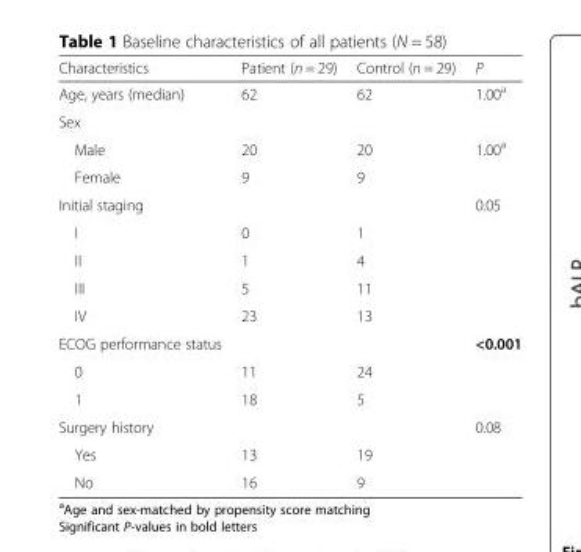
<table><thead><tr><td>Characteristics</td><td>Patient (n = 29)</td><td>Control (n = 29)</td><td>P</td></tr></thead><tbody><tr><td>Age, years (median)</td><td>62</td><td>62</td><td>1.00<sup>a</sup></td></tr><tr><td colspan="4">Sex</td></tr><tr><td>Male</td><td>20</td><td>20</td><td>1.00<sup>a</sup></td></tr><tr><td>Female</td><td>9</td><td>9</td><td></td></tr><tr><td>Initial staging</td><td></td><td></td><td>0.05</td></tr><tr><td>I</td><td>0</td><td>1</td><td></td></tr><tr><td>II</td><td>1</td><td>4</td><td></td></tr><tr><td>III</td><td>5</td><td>11</td><td></td></tr><tr><td>IV</td><td>23</td><td>13</td><td></td></tr><tr><td>ECOG performance status</td><td></td><td></td><td>&lt;0.001</td></tr><tr><td>0</td><td>11</td><td>24</td><td></td></tr><tr><td>1</td><td>18</td><td>5</td><td></td></tr><tr><td>Surgery history</td><td></td><td></td><td>0.08</td></tr><tr><td>Yes</td><td>13</td><td>19</td><td></td></tr><tr><td>No</td><td>16</td><td>9</td><td></td></tr></tbody></table>